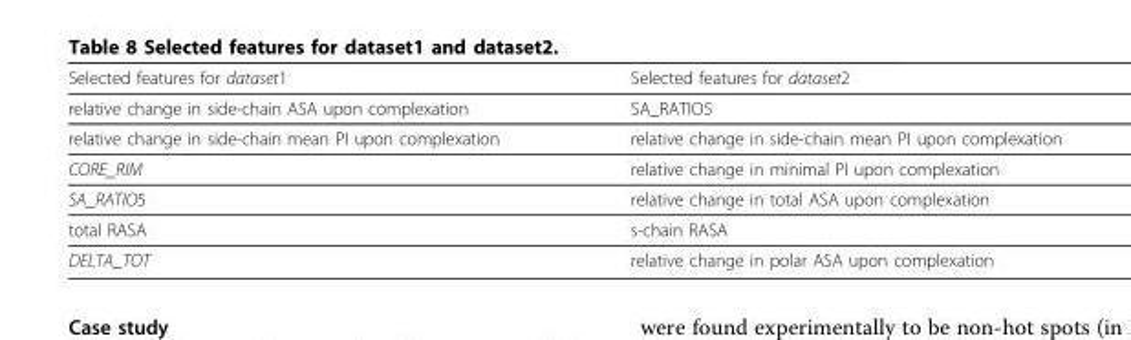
<table><thead><tr><td>Selected features for dataset1</td><td>Selected features for dataset2</td></tr></thead><tbody><tr><td>relative change in side-chain ASA upon complexation</td><td>SA_RATIO5</td></tr><tr><td>relative change in side-chain mean PI upon complexation</td><td>relative change in side-chain mean PI upon complexation</td></tr><tr><td>CORE_RIM</td><td>relative change in minimal PI upon complexation</td></tr><tr><td>SA_RATIO5</td><td>relative change in total ASA upon complexation</td></tr><tr><td>total RASA</td><td>s-chain RASA</td></tr><tr><td>DELTA_TOT</td><td>relative change in polar ASA upon complexation</td></tr></tbody></table>